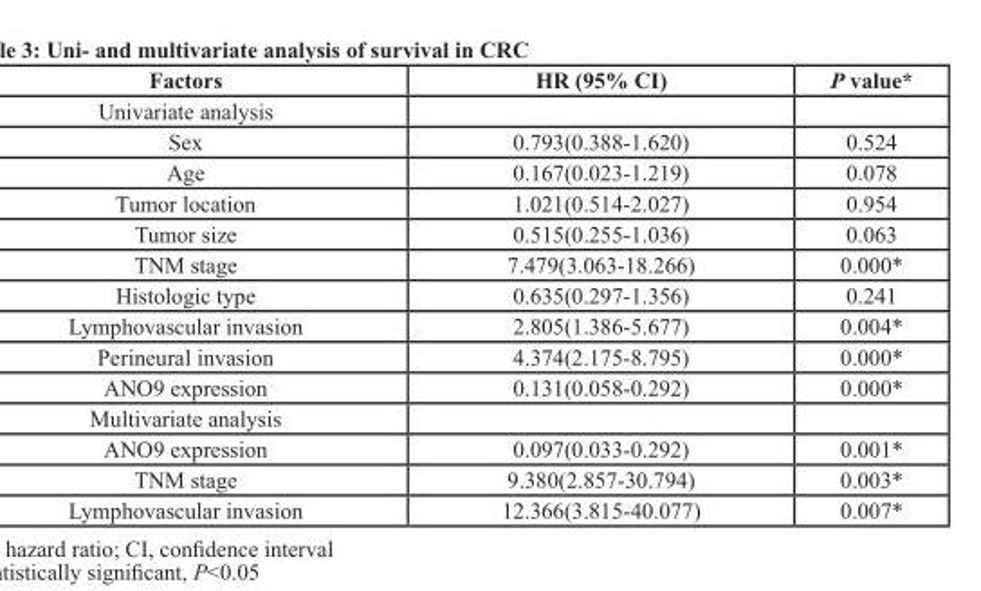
<table><thead><tr><td>Factors</td><td>HR (95% CI)</td><td>P value*</td></tr></thead><tbody><tr><td colspan="3">Univariate analysis</td></tr><tr><td>Sex</td><td>0.793(0.388-1.620)</td><td>0.524</td></tr><tr><td>Age</td><td>0.167(0.023-1.219)</td><td>0.078</td></tr><tr><td>Tumor location</td><td>1.021(0.514-2.027)</td><td>0.954</td></tr><tr><td>Tumor size</td><td>0.515(0.255-1.036)</td><td>0.063</td></tr><tr><td>TNM stage</td><td>7.479(3.063-18.266)</td><td>0.000*</td></tr><tr><td>Histologic type</td><td>0.635(0.297-1.356)</td><td>0.241</td></tr><tr><td>Lymphovascular invasion</td><td>2.805(1.386-5.677)</td><td>0.004*</td></tr><tr><td>Perineural invasion</td><td>4.374(2.175-8.795)</td><td>0.000*</td></tr><tr><td>ANO9 expression</td><td>0.131(0.058-0.292)</td><td>0.000*</td></tr><tr><td colspan="3">Multivariate analysis</td></tr><tr><td>ANO9 expression</td><td>0.097(0.033-0.292)</td><td>0.001*</td></tr><tr><td>TNM stage</td><td>9.380(2.857-30.794)</td><td>0.003*</td></tr><tr><td>Lymphovascular invasion</td><td>12.366(3.815-40.077)</td><td>0.007*</td></tr></tbody></table>